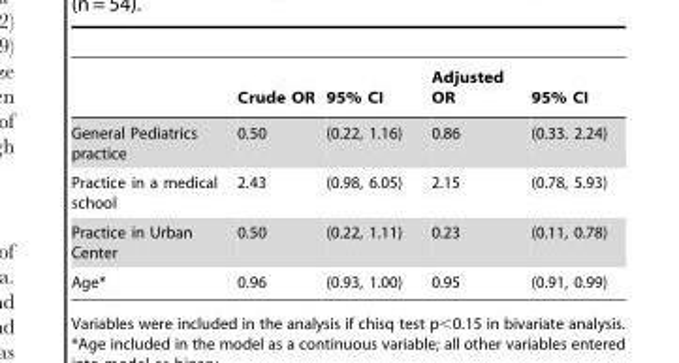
<table><thead><tr><td></td><td>Crude OR</td><td>95% CI</td><td>Adjusted OR</td><td>95% CI</td></tr></thead><tbody><tr><td>General Pediatrics practice</td><td>0.50</td><td>(0.22, 1.16)</td><td>0.86</td><td>(0.33. 2.24)</td></tr><tr><td>Practice in a medical school</td><td>2.43</td><td>(0.98, 6.05)</td><td>2.15</td><td>(0.78, 5.93)</td></tr><tr><td>Practice in Urban Center</td><td>0.50</td><td>(0.22, 1.11)</td><td>0.23</td><td>(0.11, 0.78)</td></tr><tr><td>Age*</td><td>0.96</td><td>(0.93, 1.00)</td><td>0.95</td><td>(0.91, 0.99)</td></tr></tbody></table>